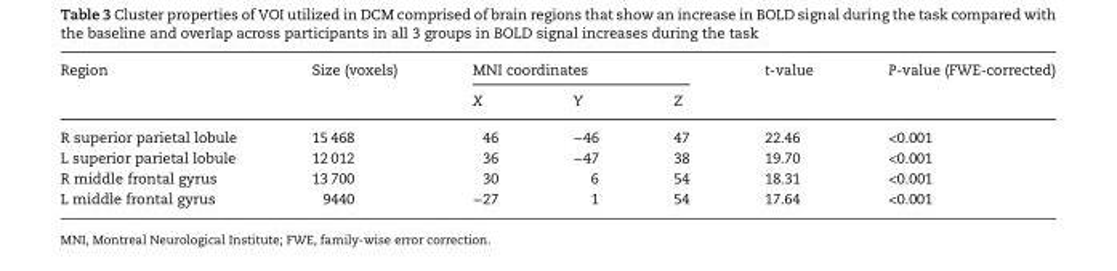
<table><thead><tr><td rowspan="2">Region</td><td rowspan="2">Size (voxels)</td><td colspan="3">MNI coordinates</td><td rowspan="2">t-value</td><td rowspan="2">P-value (FWE-corrected)</td></tr><tr><td>X</td><td>Y</td><td>Z</td></tr></thead><tbody><tr><td>R superior parietal lobule</td><td>15 468</td><td>46</td><td>−46</td><td>47</td><td>22.46</td><td>&lt;0.001</td></tr><tr><td>L superior parietal lobule</td><td>12 012</td><td>36</td><td>−47</td><td>38</td><td>19.70</td><td>&lt;0.001</td></tr><tr><td>R middle frontal gyrus</td><td>13 700</td><td>30</td><td>6</td><td>54</td><td>18.31</td><td>&lt;0.001</td></tr><tr><td>L middle frontal gyrus</td><td>9440</td><td>−27</td><td>1</td><td>54</td><td>17.64</td><td>&lt;0.001</td></tr></tbody></table>